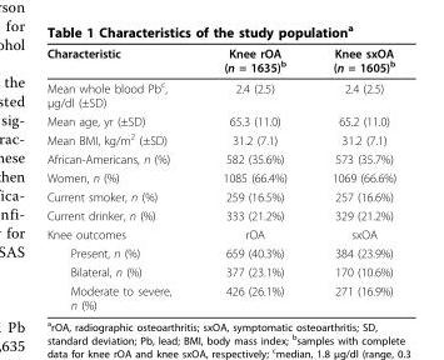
<table><thead><tr><td>Characteristic</td><td>Knee rOA (n = 1635)<sup>b</sup></td><td>Knee sxOA (n = 1605)<sup>b</sup></td></tr></thead><tbody><tr><td>Mean whole blood Pb<sup>c</sup>, μg/dl (±SD)</td><td>2.4 (2.5)</td><td>2.4 (2.5)</td></tr><tr><td>Mean age, yr (±SD)</td><td>65.3 (11.0)</td><td>65.2 (11.0)</td></tr><tr><td>Mean BMI, kg/m<sup>2</sup> (±SD)</td><td>31.2 (7.1)</td><td>31.2 (7.1)</td></tr><tr><td>African-Americans, n (%)</td><td>582 (35.6%)</td><td>573 (35.7%)</td></tr><tr><td>Women, n (%)</td><td>1085 (66.4%)</td><td>1069 (66.6%)</td></tr><tr><td>Current smoker, n (%)</td><td>259 (16.5%)</td><td>257 (16.6%)</td></tr><tr><td>Current drinker, n (%)</td><td>333 (21.2%)</td><td>329 (21.2%)</td></tr><tr><td>Knee outcomes</td><td>rOA</td><td>sxOA</td></tr><tr><td>Present, n (%)</td><td>659 (40.3%)</td><td>384 (23.9%)</td></tr><tr><td>Bilateral, n (%)</td><td>377 (23.1%)</td><td>170 (10.6%)</td></tr><tr><td>Moderate to severe, n (%)</td><td>426 (26.1%)</td><td>271 (16.9%)</td></tr></tbody></table>